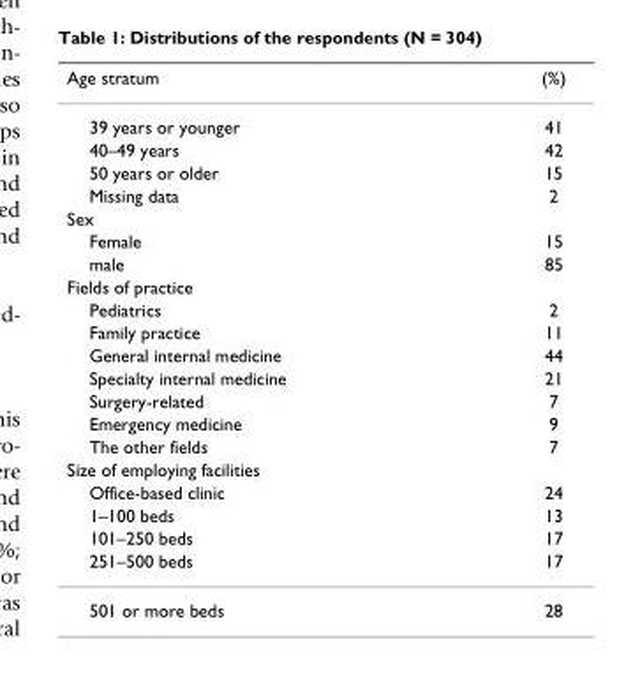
<table><thead><tr><td>Age stratum</td><td>(%)</td></tr></thead><tbody><tr><td>39 years or younger</td><td>41</td></tr><tr><td>40–49 years</td><td>42</td></tr><tr><td>50 years or older</td><td>15</td></tr><tr><td>Missing data</td><td>2</td></tr><tr><td colspan="2">Sex</td></tr><tr><td>Female</td><td>15</td></tr><tr><td>male</td><td>85</td></tr><tr><td colspan="2">Fields of practice</td></tr><tr><td>Pediatrics</td><td>2</td></tr><tr><td>Family practice</td><td>11</td></tr><tr><td>General internal medicine</td><td>44</td></tr><tr><td>Specialty internal medicine</td><td>21</td></tr><tr><td>Surgery-related</td><td>7</td></tr><tr><td>Emergency medicine</td><td>9</td></tr><tr><td>The other fields</td><td>7</td></tr><tr><td colspan="2">Size of employing facilities</td></tr><tr><td>Office-based clinic</td><td>24</td></tr><tr><td>1–100 beds</td><td>13</td></tr><tr><td>101–250 beds</td><td>17</td></tr><tr><td>251–500 beds</td><td>17</td></tr><tr><td>501 or more beds</td><td>28</td></tr></tbody></table>